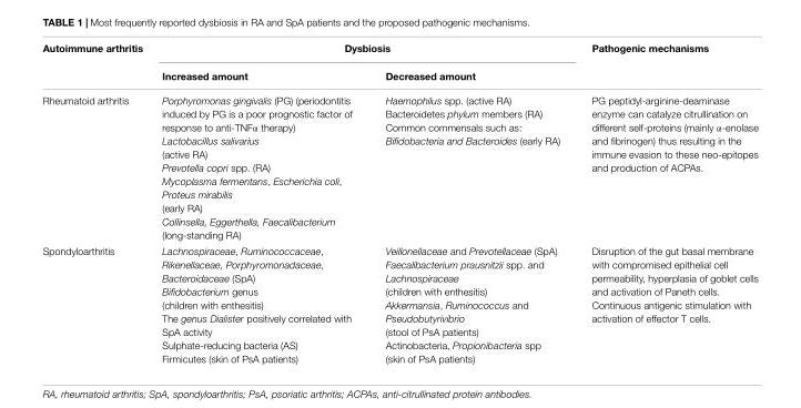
<table><thead><tr><td rowspan="2">Autoimmune arthritis</td><td colspan="2">Dysbiosis</td><td rowspan="2">Pathogenic mechanisms</td></tr><tr><td>Increased amount</td><td>Decreased amount</td></tr></thead><tbody><tr><td>Rheumatoid arthritis</td><td>Porphyromonas gingivalis (PG) (periodontitis induced by PG is a poor prognostic factor of response to anti-TNFα therapy) Lactobacillus salivarius (active RA) Prevotella copri spp. (RA) Mycoplasma fermentans, Escherichia coli, Proteus mirabilis (early RA) Collinsella, Eggerthella, Faecalibacterium (long-standing RA)</td><td>Haemophilus spp. (active RA) Bacteroidetes phylum members (RA) Common commensals such as: Bifidobacteria and Bacteroides (early RA)</td><td>PG peptidyl-arginine-deaminase enzyme can catalyze citrullination on different self-proteins (mainly α-enolase and fibrinogen) thus resulting in the immune evasion to these neo-epitopes and production of ACPAs.</td></tr><tr><td>Spondyloarthritis</td><td>Lachnospiraceae, Ruminococcaceae, Rikenellaceae, Porphyromonadaceae, Bacteroidaceae (SpA) Bifidobacterium genus (children with enthesitis) The genus Dialister positively correlated with SpA activity Sulphate-reducing bacteria (AS) Firmicutes (skin of PsA patients)</td><td>Veillonellaceae and Prevotellaceae (SpA) Faecalibacterium prausnitzii spp. and Lachnospiraceae (children with enthesitis) Akkermansia, Ruminococcus and Pseudobutyrivibrio (stool of PsA patients) Actinobacteria, Propionibacteria spp (skin of PsA patients)</td><td>Disruption of the gut basal membrane with compromised epithelial cell permeability, hyperplasia of goblet cells and activation of Paneth cells. Continuous antigenic stimulation with activation of effector T cells.</td></tr></tbody></table>